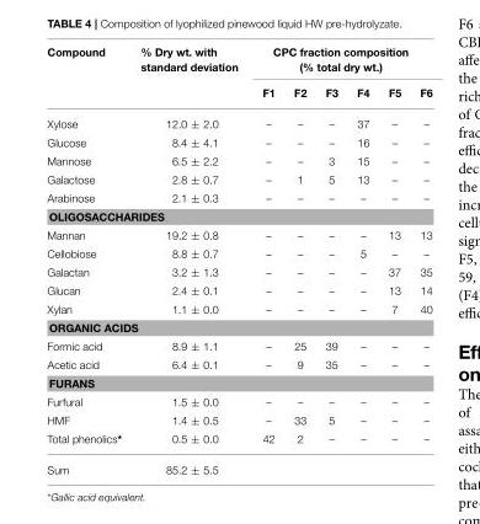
<table><thead><tr><td rowspan="2">Compound</td><td rowspan="2">% Dry wt. with standard deviation</td><td colspan="6">CPC fraction composition (% total dry wt.)</td></tr><tr><td>F1</td><td>F2</td><td>F3</td><td>F4</td><td>F5</td><td>F6</td></tr></thead><tbody><tr><td>Xylose</td><td>12.0 ± 2.0</td><td>–</td><td>–</td><td>–</td><td>37</td><td>–</td><td>–</td></tr><tr><td>Glucose</td><td>8.4 ± 4.1</td><td>–</td><td>–</td><td>–</td><td>16</td><td>–</td><td>–</td></tr><tr><td>Mannose</td><td>6.5 ± 2.2</td><td>–</td><td>–</td><td>3</td><td>15</td><td>–</td><td>–</td></tr><tr><td>Galactose</td><td>2.8 ± 0.7</td><td>–</td><td>1</td><td>5</td><td>13</td><td>–</td><td>–</td></tr><tr><td>Arabinose</td><td>2.1 ± 0.3</td><td>–</td><td>–</td><td>–</td><td>–</td><td>–</td><td>–</td></tr><tr><td colspan="8">OLIGOSACCHARIDES</td></tr><tr><td>Mannan</td><td>19.2 ± 0.8</td><td>–</td><td>–</td><td>–</td><td>–</td><td>13</td><td>13</td></tr><tr><td>Cellobiose</td><td>8.8 ± 0.7</td><td>–</td><td>–</td><td>–</td><td>5</td><td>–</td><td>–</td></tr><tr><td>Galactan</td><td>3.2 ± 1.3</td><td>–</td><td>–</td><td>–</td><td>–</td><td>37</td><td>35</td></tr><tr><td>Glucan</td><td>2.4 ± 0.1</td><td>–</td><td>–</td><td>–</td><td>–</td><td>13</td><td>14</td></tr><tr><td>Xylan</td><td>1.1 ± 0.0</td><td>–</td><td>–</td><td>–</td><td>–</td><td>7</td><td>40</td></tr><tr><td colspan="8">ORGANIC ACIDS</td></tr><tr><td>Formic acid</td><td>8.9 ± 1.1</td><td>–</td><td>25</td><td>39</td><td>–</td><td>–</td><td>–</td></tr><tr><td>Acetic acid</td><td>6.4 ± 0.1</td><td>–</td><td>9</td><td>35</td><td>–</td><td>–</td><td>–</td></tr><tr><td colspan="8">FURANS</td></tr><tr><td>Furfural</td><td>1.5 ± 0.0</td><td>–</td><td>–</td><td>–</td><td>–</td><td>–</td><td>–</td></tr><tr><td>HMF</td><td>1.4 ± 0.5</td><td>–</td><td>33</td><td>5</td><td>–</td><td>–</td><td>–</td></tr><tr><td>Total phenolics*</td><td>0.5 ± 0.0</td><td>42</td><td>2</td><td>–</td><td>–</td><td>–</td><td>–</td></tr><tr><td>Sum</td><td>85.2 ± 5.5</td><td></td><td></td><td></td><td></td><td></td><td></td></tr></tbody></table>